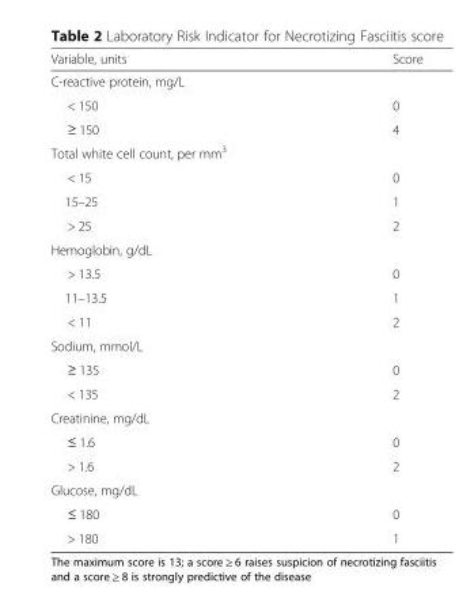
<table><thead><tr><td>Variable, units</td><td>Score</td></tr></thead><tbody><tr><td colspan="2">C-reactive protein, mg/L</td></tr><tr><td>&lt; 150</td><td>0</td></tr><tr><td>≥ 150</td><td>4</td></tr><tr><td colspan="2">Total white cell count, per mm<sup>3</sup></td></tr><tr><td>&lt; 15</td><td>0</td></tr><tr><td>15–25</td><td>1</td></tr><tr><td>&gt; 25</td><td>2</td></tr><tr><td colspan="2">Hemoglobin, g/dL</td></tr><tr><td>&gt; 13.5</td><td>0</td></tr><tr><td>11–13.5</td><td>1</td></tr><tr><td>&lt; 11</td><td>2</td></tr><tr><td colspan="2">Sodium, mmol/L</td></tr><tr><td>≥ 135</td><td>0</td></tr><tr><td>&lt; 135</td><td>2</td></tr><tr><td colspan="2">Creatinine, mg/dL</td></tr><tr><td>≤ 1.6</td><td>0</td></tr><tr><td>&gt; 1.6</td><td>2</td></tr><tr><td colspan="2">Glucose, mg/dL</td></tr><tr><td>≤ 180</td><td>0</td></tr><tr><td>&gt; 180</td><td>1</td></tr></tbody></table>